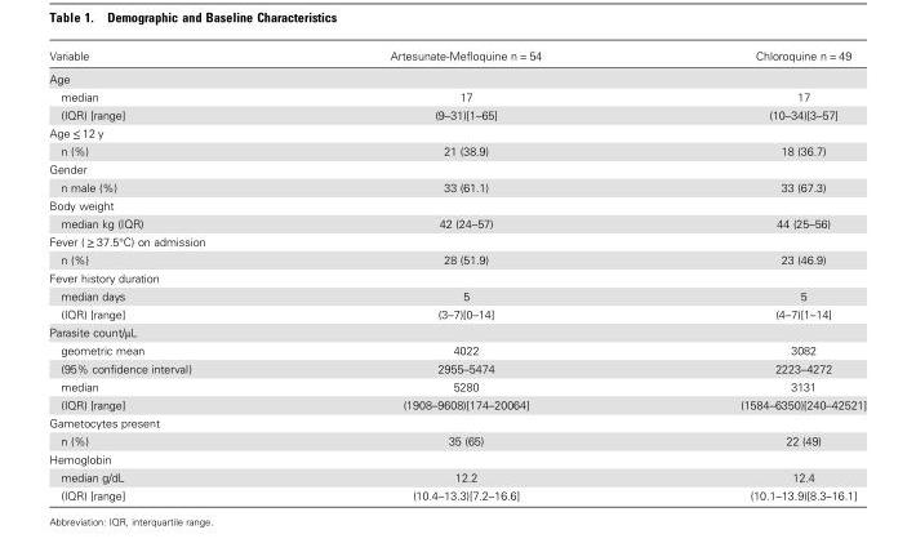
<table><thead><tr><td>Variable</td><td>Artesunate-Mefloquine n = 54</td><td>Chloroquine n = 49</td></tr></thead><tbody><tr><td colspan="3">Age</td></tr><tr><td>median</td><td>17</td><td>17</td></tr><tr><td>(IQR) [range]</td><td>(9–31)[1–65]</td><td>(10–34)[3–57]</td></tr><tr><td colspan="3">Age ≤ 12 y</td></tr><tr><td>n (%)</td><td>21 (38.9)</td><td>18 (36.7)</td></tr><tr><td colspan="3">Gender</td></tr><tr><td>n male (%)</td><td>33 (61.1)</td><td>33 (67.3)</td></tr><tr><td colspan="3">Body weight</td></tr><tr><td>median kg (IQR)</td><td>42 (24–57)</td><td>44 (25–56)</td></tr><tr><td colspan="3">Fever ( ≥ 37.5°C) on admission</td></tr><tr><td>n (%)</td><td>28 (51.9)</td><td>23 (46.9)</td></tr><tr><td colspan="3">Fever history duration</td></tr><tr><td>median days</td><td>5</td><td>5</td></tr><tr><td>(IQR) [range]</td><td>(3–7)[0–14]</td><td>(4–7)[1–14]</td></tr><tr><td colspan="3">Parasite count/μL</td></tr><tr><td>geometric mean</td><td>4022</td><td>3082</td></tr><tr><td>(95% confidence interval)</td><td>2955–5474</td><td>2223–4272</td></tr><tr><td>median</td><td>5280</td><td>3131</td></tr><tr><td>(IQR) [range]</td><td>(1908–9608)[174–20064]</td><td>(1584–6350)[240–42521]</td></tr><tr><td colspan="3">Gametocytes present</td></tr><tr><td>n (%)</td><td>35 (65)</td><td>22 (49)</td></tr><tr><td colspan="3">Hemoglobin</td></tr><tr><td>median g/dL</td><td>12.2</td><td>12.4</td></tr><tr><td>(IQR) [range]</td><td>(10.4–13.3)[7.2–16.6]</td><td>(10.1–13.9)[8.3–16.1]</td></tr></tbody></table>